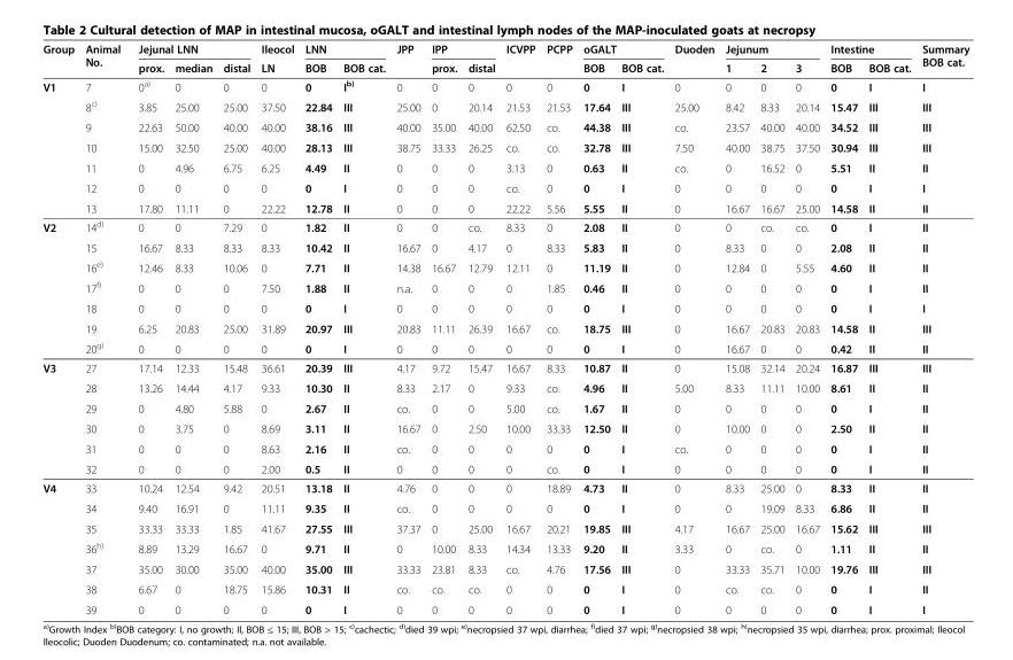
<table><thead><tr><td rowspan="2">Group</td><td rowspan="2">Animal No.</td><td colspan="3">Jejunal LNN</td><td rowspan="2">Ileocol LN</td><td colspan="2">LNN</td><td rowspan="2">JPP</td><td colspan="2">IPP</td><td rowspan="2">ICVPP</td><td rowspan="2">PCPP</td><td colspan="2">oGALT</td><td rowspan="2">Duoden</td><td colspan="3">Jejunum</td><td colspan="2">Intestine</td><td rowspan="2">Summary BOB cat.</td></tr><tr><td>prox.</td><td>median</td><td>distal</td><td>BOB</td><td>BOB cat.</td><td>prox.</td><td>distal</td><td>BOB</td><td>BOB cat.</td><td>1</td><td>2</td><td>3</td><td>BOB</td><td>BOB cat.</td></tr></thead><tbody><tr><td rowspan="7">V1</td><td>7</td><td>0<sup>a)</sup></td><td>0</td><td>0</td><td>0</td><td>0</td><td>I<sup>b)</sup></td><td>0</td><td>0</td><td>0</td><td>0</td><td>0</td><td>0</td><td>I</td><td>0</td><td>0</td><td>0</td><td>0</td><td>0</td><td>I</td><td>I</td></tr><tr><td>8<sup>c)</sup></td><td>3.85</td><td>25.00</td><td>25.00</td><td>37.50</td><td>22.84</td><td>III</td><td>25.00</td><td>0</td><td>20.14</td><td>21.53</td><td>21.53</td><td>17.64</td><td>III</td><td>25.00</td><td>8.42</td><td>8.33</td><td>20.14</td><td>15.47</td><td>III</td><td>III</td></tr><tr><td>9</td><td>22.63</td><td>50.00</td><td>40.00</td><td>40.00</td><td>38.16</td><td>III</td><td>40.00</td><td>35.00</td><td>40.00</td><td>62.50</td><td>co.</td><td>44.38</td><td>III</td><td>co.</td><td>23.57</td><td>40.00</td><td>40.00</td><td>34.52</td><td>III</td><td>III</td></tr><tr><td>10</td><td>15.00</td><td>32.50</td><td>25.00</td><td>40.00</td><td>28.13</td><td>III</td><td>38.75</td><td>33.33</td><td>26.25</td><td>co.</td><td>co.</td><td>32.78</td><td>III</td><td>7.50</td><td>40.00</td><td>38.75</td><td>37.50</td><td>30.94</td><td>III</td><td>III</td></tr><tr><td>11</td><td>0</td><td>4.96</td><td>6.75</td><td>6.25</td><td>4.49</td><td>II</td><td>0</td><td>0</td><td>0</td><td>3.13</td><td>0</td><td>0.63</td><td>II</td><td>co.</td><td>0</td><td>16.52</td><td>0</td><td>5.51</td><td>II</td><td>II</td></tr><tr><td>12</td><td>0</td><td>0</td><td>0</td><td>0</td><td>0</td><td>I</td><td>0</td><td>0</td><td>0</td><td>co.</td><td>0</td><td>0</td><td>I</td><td>0</td><td>0</td><td>0</td><td>0</td><td>0</td><td>I</td><td>I</td></tr><tr><td>13</td><td>17.80</td><td>11.11</td><td>0</td><td>22.22</td><td>12.78</td><td>II</td><td>0</td><td>0</td><td>0</td><td>22.22</td><td>5.56</td><td>5.55</td><td>II</td><td>0</td><td>16.67</td><td>16.67</td><td>25.00</td><td>14.58</td><td>II</td><td>II</td></tr><tr><td rowspan="7">V2</td><td>14<sup>d)</sup></td><td>0</td><td>0</td><td>7.29</td><td>0</td><td>1.82</td><td>II</td><td>0</td><td>0</td><td>co.</td><td>8.33</td><td>0</td><td>2.08</td><td>II</td><td>0</td><td>0</td><td>co.</td><td>co.</td><td>0</td><td>I</td><td>II</td></tr><tr><td>15</td><td>16.67</td><td>8.33</td><td>8.33</td><td>8.33</td><td>10.42</td><td>II</td><td>16.67</td><td>0</td><td>4.17</td><td>0</td><td>8.33</td><td>5.83</td><td>II</td><td>0</td><td>8.33</td><td>0</td><td>0</td><td>2.08</td><td>II</td><td>II</td></tr><tr><td>16<sup>e)</sup></td><td>12.46</td><td>8.33</td><td>10.06</td><td>0</td><td>7.71</td><td>II</td><td>14.38</td><td>16.67</td><td>12.79</td><td>12.11</td><td>0</td><td>11.19</td><td>II</td><td>0</td><td>12.84</td><td>0</td><td>5.55</td><td>4.60</td><td>II</td><td>II</td></tr><tr><td>17<sup>f)</sup></td><td>0</td><td>0</td><td>0</td><td>7.50</td><td>1.88</td><td>II</td><td>n.a.</td><td>0</td><td>0</td><td>0</td><td>1.85</td><td>0.46</td><td>II</td><td>0</td><td>0</td><td>0</td><td>0</td><td>0</td><td>I</td><td>II</td></tr><tr><td>18</td><td>0</td><td>0</td><td>0</td><td>0</td><td>0</td><td>I</td><td>0</td><td>0</td><td>0</td><td>0</td><td>0</td><td>0</td><td>I</td><td>0</td><td>0</td><td>0</td><td>0</td><td>0</td><td>I</td><td>I</td></tr><tr><td>19</td><td>6.25</td><td>20.83</td><td>25.00</td><td>31.89</td><td>20.97</td><td>III</td><td>20.83</td><td>11.11</td><td>26.39</td><td>16.67</td><td>co.</td><td>18.75</td><td>III</td><td>0</td><td>16.67</td><td>20.83</td><td>20.83</td><td>14.58</td><td>II</td><td>III</td></tr><tr><td>20<sup>g)</sup></td><td>0</td><td>0</td><td>0</td><td>0</td><td>0</td><td>I</td><td>0</td><td>0</td><td>0</td><td>0</td><td>0</td><td>0</td><td>I</td><td>0</td><td>16.67</td><td>0</td><td>0</td><td>0.42</td><td>II</td><td>II</td></tr><tr><td rowspan="6">V3</td><td>27</td><td>17.14</td><td>12.33</td><td>15.48</td><td>36.61</td><td>20.39</td><td>III</td><td>4.17</td><td>9.72</td><td>15.47</td><td>16.67</td><td>8.33</td><td>10.87</td><td>II</td><td>0</td><td>15.08</td><td>32.14</td><td>20.24</td><td>16.87</td><td>III</td><td>III</td></tr><tr><td>28</td><td>13.26</td><td>14.44</td><td>4.17</td><td>9.33</td><td>10.30</td><td>II</td><td>8.33</td><td>2.17</td><td>0</td><td>9.33</td><td>co.</td><td>4.96</td><td>II</td><td>5.00</td><td>8.33</td><td>11.11</td><td>10.00</td><td>8.61</td><td>II</td><td>II</td></tr><tr><td>29</td><td>0</td><td>4.80</td><td>5.88</td><td>0</td><td>2.67</td><td>II</td><td>co.</td><td>0</td><td>0</td><td>5.00</td><td>co.</td><td>1.67</td><td>II</td><td>0</td><td>0</td><td>0</td><td>0</td><td>0</td><td>I</td><td>II</td></tr><tr><td>30</td><td>0</td><td>3.75</td><td>0</td><td>8.69</td><td>3.11</td><td>II</td><td>16.67</td><td>0</td><td>2.50</td><td>10.00</td><td>33.33</td><td>12.50</td><td>II</td><td>0</td><td>10.00</td><td>0</td><td>0</td><td>2.50</td><td>II</td><td>II</td></tr><tr><td>31</td><td>0</td><td>0</td><td>0</td><td>8.63</td><td>2.16</td><td>II</td><td>co.</td><td>0</td><td>0</td><td>0</td><td>0</td><td>0</td><td>I</td><td>co.</td><td>0</td><td>0</td><td>0</td><td>0</td><td>I</td><td>II</td></tr><tr><td>32</td><td>0</td><td>0</td><td>0</td><td>2.00</td><td>0.5</td><td>II</td><td>0</td><td>0</td><td>0</td><td>0</td><td>co.</td><td>0</td><td>I</td><td>0</td><td>0</td><td>0</td><td>0</td><td>0</td><td>I</td><td>II</td></tr><tr><td rowspan="7">V4</td><td>33</td><td>10.24</td><td>12.54</td><td>9.42</td><td>20.51</td><td>13.18</td><td>II</td><td>4.76</td><td>0</td><td>0</td><td>0</td><td>18.89</td><td>4.73</td><td>II</td><td>0</td><td>8.33</td><td>25.00</td><td>0</td><td>8.33</td><td>II</td><td>II</td></tr><tr><td>34</td><td>9.40</td><td>16.91</td><td>0</td><td>11.11</td><td>9.35</td><td>II</td><td>co.</td><td>0</td><td>0</td><td>0</td><td>0</td><td>0</td><td>I</td><td>0</td><td>0</td><td>19.09</td><td>8.33</td><td>6.86</td><td>II</td><td>II</td></tr><tr><td>35</td><td>33.33</td><td>33.33</td><td>1.85</td><td>41.67</td><td>27.55</td><td>III</td><td>37.37</td><td>0</td><td>25.00</td><td>16.67</td><td>20.21</td><td>19.85</td><td>III</td><td>4.17</td><td>16.67</td><td>25.00</td><td>16.67</td><td>15.62</td><td>III</td><td>III</td></tr><tr><td>36<sup>h)</sup></td><td>8.89</td><td>13.29</td><td>16.67</td><td>0</td><td>9.71</td><td>II</td><td>0</td><td>10.00</td><td>8.33</td><td>14.34</td><td>13.33</td><td>9.20</td><td>II</td><td>3.33</td><td>0</td><td>co.</td><td>0</td><td>1.11</td><td>II</td><td>II</td></tr><tr><td>37</td><td>35.00</td><td>30.00</td><td>35.00</td><td>40.00</td><td>35.00</td><td>III</td><td>33.33</td><td>23.81</td><td>8.33</td><td>co.</td><td>4.76</td><td>17.56</td><td>III</td><td>0</td><td>33.33</td><td>35.71</td><td>10.00</td><td>19.76</td><td>III</td><td>III</td></tr><tr><td>38</td><td>6.67</td><td>0</td><td>18.75</td><td>15.86</td><td>10.31</td><td>II</td><td>co.</td><td>co.</td><td>co.</td><td>0</td><td>0</td><td>0</td><td>I</td><td>0</td><td>co.</td><td>co.</td><td>0</td><td>0</td><td>I</td><td>II</td></tr><tr><td>39</td><td>0</td><td>0</td><td>0</td><td>0</td><td>0</td><td>I</td><td>0</td><td>0</td><td>0</td><td>0</td><td>0</td><td>0</td><td>I</td><td>0</td><td>0</td><td>0</td><td>0</td><td>0</td><td>I</td><td>I</td></tr></tbody></table>